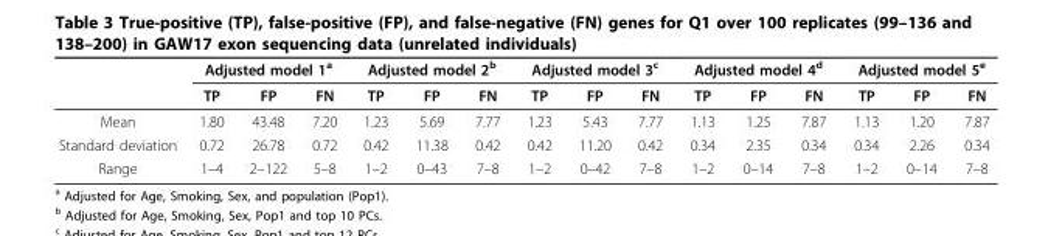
<table><thead><tr><td rowspan="2"></td><td colspan="3">Adjusted model 1<sup>a</sup></td><td colspan="3">Adjusted model 2<sup>b</sup></td><td colspan="3">Adjusted model 3<sup>c</sup></td><td colspan="3">Adjusted model 4<sup>d</sup></td><td colspan="3">Adjusted model 5<sup>e</sup></td></tr><tr><td>TP</td><td>FP</td><td>FN</td><td>TP</td><td>FP</td><td>FN</td><td>TP</td><td>FP</td><td>FN</td><td>TP</td><td>FP</td><td>FN</td><td>TP</td><td>FP</td><td>FN</td></tr></thead><tbody><tr><td>Mean</td><td>1.80</td><td>43.48</td><td>7.20</td><td>1.23</td><td>5.69</td><td>7.77</td><td>1.23</td><td>5.43</td><td>7.77</td><td>1.13</td><td>1.25</td><td>7.87</td><td>1.13</td><td>1.20</td><td>7.87</td></tr><tr><td>Standard deviation</td><td>0.72</td><td>26.78</td><td>0.72</td><td>0.42</td><td>11.38</td><td>0.42</td><td>0.42</td><td>11.20</td><td>0.42</td><td>0.34</td><td>2.35</td><td>0.34</td><td>0.34</td><td>2.26</td><td>0.34</td></tr><tr><td>Range</td><td>1–4</td><td>2–122</td><td>5–8</td><td>1–2</td><td>0–43</td><td>7–8</td><td>1–2</td><td>0–42</td><td>7–8</td><td>1–2</td><td>0–14</td><td>7–8</td><td>1–2</td><td>0–14</td><td>7–8</td></tr></tbody></table>